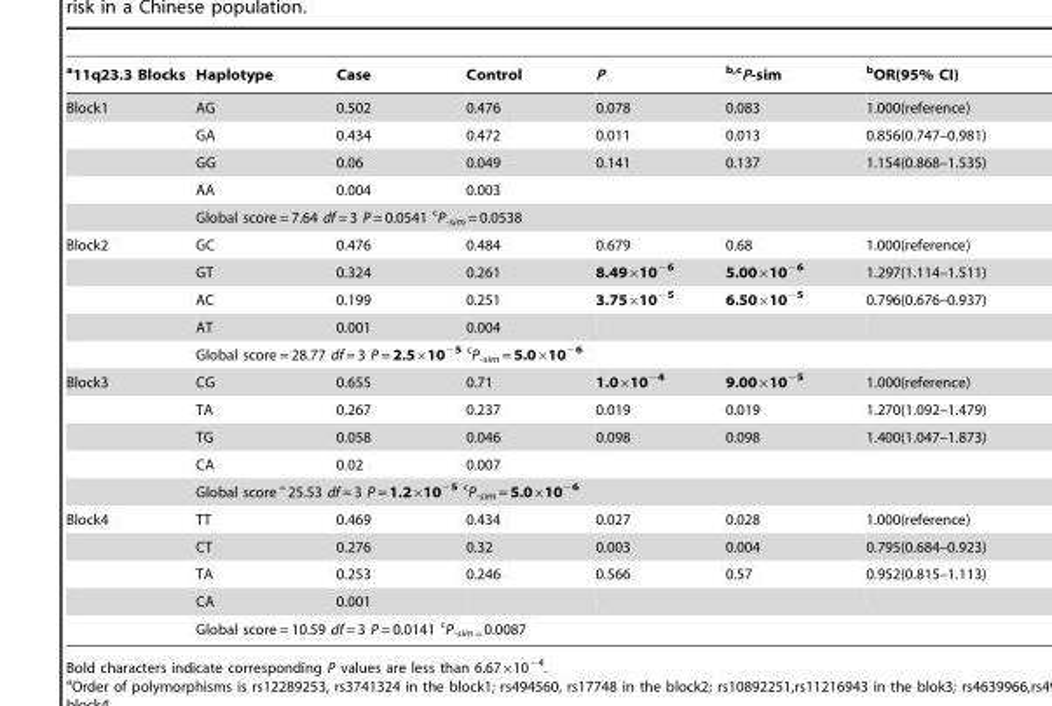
<table><thead><tr><td>a11q23.3 Blocks</td><td>Haplotype</td><td>Case</td><td>Control</td><td>P</td><td>b,cP-sim</td><td>bOR(95% CI)</td></tr></thead><tbody><tr><td rowspan="5">Block1</td><td>AG</td><td>0.502</td><td>0.476</td><td>0.078</td><td>0.083</td><td>1.000(reference)</td></tr><tr><td>GA</td><td>0.434</td><td>0.472</td><td>0.011</td><td>0.013</td><td>0.856(0.747–0.981)</td></tr><tr><td>GG</td><td>0.06</td><td>0.049</td><td>0.141</td><td>0.137</td><td>1.154(0.868–1.535)</td></tr><tr><td>AA</td><td>0.004</td><td>0.003</td><td></td><td></td><td></td></tr><tr><td colspan="6">Global score = 7.64 df = 3 P = 0.0541 cP<sub>-sim</sub> = 0.0538</td></tr><tr><td rowspan="5">Block2</td><td>GC</td><td>0.476</td><td>0.484</td><td>0.679</td><td>0.68</td><td>1.000(reference)</td></tr><tr><td>GT</td><td>0.324</td><td>0.261</td><td>8.49×10<sup>−6</sup></td><td>5.00×10<sup>−6</sup></td><td>1.297(1.114–1.511)</td></tr><tr><td>AC</td><td>0.199</td><td>0.251</td><td>3.75×10<sup>−5</sup></td><td>6.50×10<sup>−5</sup></td><td>0.796(0.676–0.937)</td></tr><tr><td>AT</td><td>0.001</td><td>0.004</td><td></td><td></td><td></td></tr><tr><td colspan="6">Global score = 28.77 df = 3 P = 2.5×10<sup>−5</sup> cP<sub>-sim</sub> = 5.0×10<sup>−6</sup></td></tr><tr><td rowspan="5">Block3</td><td>CG</td><td>0.655</td><td>0.71</td><td>1.0×10<sup>−4</sup></td><td>9.00×10<sup>−5</sup></td><td>1.000(reference)</td></tr><tr><td>TA</td><td>0.267</td><td>0.237</td><td>0.019</td><td>0.019</td><td>1.270(1.092–1.479)</td></tr><tr><td>TG</td><td>0.058</td><td>0.046</td><td>0.098</td><td>0.098</td><td>1.400(1.047–1.873)</td></tr><tr><td>CA</td><td>0.02</td><td>0.007</td><td></td><td></td><td></td></tr><tr><td colspan="6">Global score <sup>=</sup>25.53 df = 3 P = 1.2×10<sup>−5</sup> cP<sub>-sim</sub> = 5.0×10<sup>−6</sup></td></tr><tr><td rowspan="5">Block4</td><td>TT</td><td>0.469</td><td>0.434</td><td>0.027</td><td>0.028</td><td>1.000(reference)</td></tr><tr><td>CT</td><td>0.276</td><td>0.32</td><td>0.003</td><td>0.004</td><td>0.795(0.684–0.923)</td></tr><tr><td>TA</td><td>0.253</td><td>0.246</td><td>0.566</td><td>0.57</td><td>0.952(0.815–1.113)</td></tr><tr><td>CA</td><td>0.001</td><td></td><td></td><td></td><td></td></tr><tr><td colspan="6">Global score = 10.59 df = 3 P = 0.0141 cP<sub>-sim =</sub>0.0087</td></tr></tbody></table>